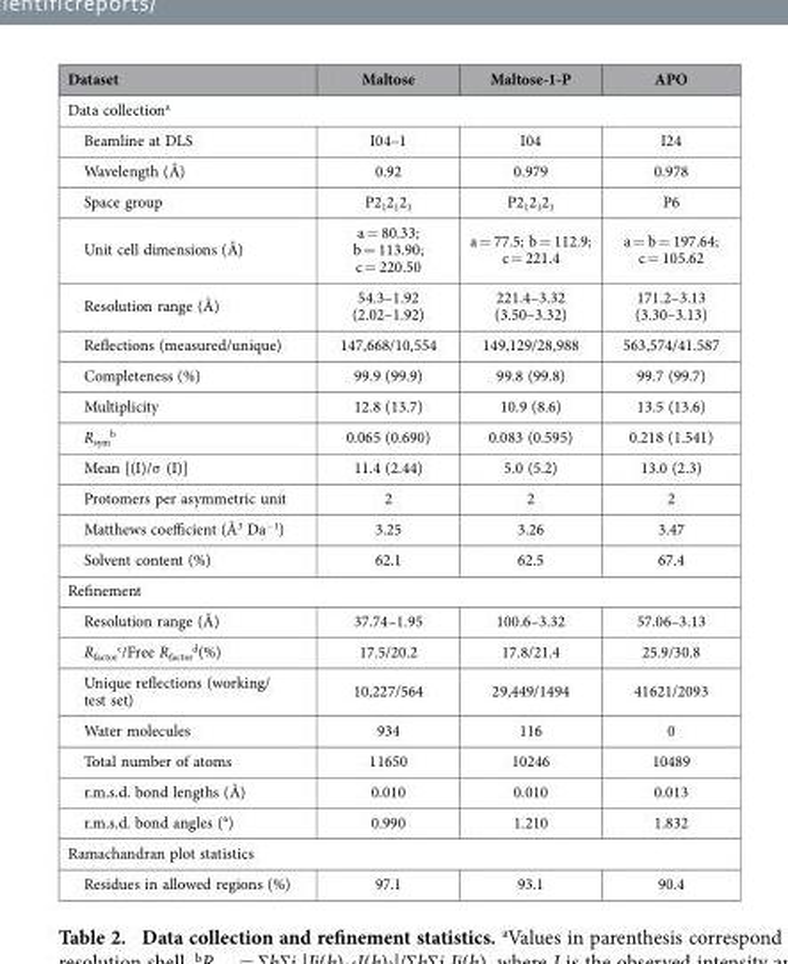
<table><thead><tr><td>Dataset</td><td>Maltose</td><td>Maltose-1-P</td><td>APO</td></tr></thead><tbody><tr><td colspan="4">Data collection<sup>a</sup></td></tr><tr><td>Beamline at DLS</td><td>I04–1</td><td>I04</td><td>I24</td></tr><tr><td>Wavelength (Å)</td><td>0.92</td><td>0.979</td><td>0.978</td></tr><tr><td>Space group</td><td>P2<sub>1</sub>2<sub>1</sub>2<sub>1</sub></td><td>P2<sub>1</sub>2<sub>1</sub>2<sub>1</sub></td><td>P6</td></tr><tr><td>Unit cell dimensions (Å)</td><td>a = 80.33; b = 113.90; c = 220.50</td><td>a = 77.5; b = 112.9; c = 221.4</td><td>a = b = 197.64; c = 105.62</td></tr><tr><td>Resolution range (Å)</td><td>54.3–1.92 (2.02–1.92)</td><td>221.4–3.32 (3.50–3.32)</td><td>171.2–3.13 (3.30–3.13)</td></tr><tr><td>Reflections (measured/unique)</td><td>147,668/10,554</td><td>149,129/28,988</td><td>563,574/41.587</td></tr><tr><td>Completeness (%)</td><td>99.9 (99.9)</td><td>99.8 (99.8)</td><td>99.7 (99.7)</td></tr><tr><td>Multiplicity</td><td>12.8 (13.7)</td><td>10.9 (8.6)</td><td>13.5 (13.6)</td></tr><tr><td>R<sub>sym</sub> <sup>b</sup></td><td>0.065 (0.690)</td><td>0.083 (0.595)</td><td>0.218 (1.541)</td></tr><tr><td>Mean [(I)/σ (I)]</td><td>11.4 (2.44)</td><td>5.0 (5.2)</td><td>13.0 (2.3)</td></tr><tr><td>Protomers per asymmetric unit</td><td>2</td><td>2</td><td>2</td></tr><tr><td>Matthews coefficient (Å<sup>3</sup> Da<sup>−1</sup>)</td><td>3.25</td><td>3.26</td><td>3.47</td></tr><tr><td>Solvent content (%)</td><td>62.1</td><td>62.5</td><td>67.4</td></tr><tr><td colspan="4">Refinement</td></tr><tr><td>Resolution range (Å)</td><td>37.74–1.95</td><td>100.6–3.32</td><td>57.06–3.13</td></tr><tr><td>R<sub>factor</sub> <sup>c</sup>/Free R<sub>factor</sub> <sup>d</sup>(%)</td><td>17.5/20.2</td><td>17.8/21.4</td><td>25.9/30.8</td></tr><tr><td>Unique reflections (working/ test set)</td><td>10,227/564</td><td>29,449/1494</td><td>41621/2093</td></tr><tr><td>Water molecules</td><td>934</td><td>116</td><td>0</td></tr><tr><td>Total number of atoms</td><td>11650</td><td>10246</td><td>10489</td></tr><tr><td>r.m.s.d. bond lengths (Å)</td><td>0.010</td><td>0.010</td><td>0.013</td></tr><tr><td>r.m.s.d. bond angles (°)</td><td>0.990</td><td>1.210</td><td>1.832</td></tr><tr><td colspan="4">Ramachandran plot statistics</td></tr><tr><td>Residues in allowed regions (%)</td><td>97.1</td><td>93.1</td><td>90.4</td></tr></tbody></table>